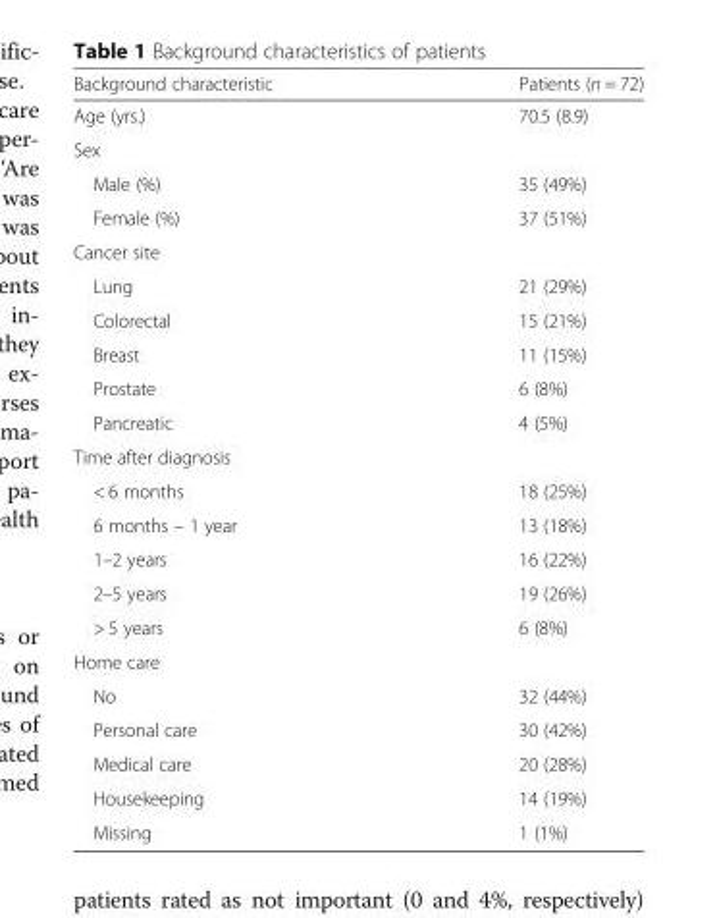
<table><thead><tr><td>Background characteristic</td><td>Patients (n = 72)</td></tr></thead><tbody><tr><td>Age (yrs.)</td><td>70.5 (8.9)</td></tr><tr><td colspan="2">Sex</td></tr><tr><td>Male (%)</td><td>35 (49%)</td></tr><tr><td>Female (%)</td><td>37 (51%)</td></tr><tr><td colspan="2">Cancer site</td></tr><tr><td>Lung</td><td>21 (29%)</td></tr><tr><td>Colorectal</td><td>15 (21%)</td></tr><tr><td>Breast</td><td>11 (15%)</td></tr><tr><td>Prostate</td><td>6 (8%)</td></tr><tr><td>Pancreatic</td><td>4 (5%)</td></tr><tr><td colspan="2">Time after diagnosis</td></tr><tr><td>&lt; 6 months</td><td>18 (25%)</td></tr><tr><td>6 months – 1 year</td><td>13 (18%)</td></tr><tr><td>1–2 years</td><td>16 (22%)</td></tr><tr><td>2–5 years</td><td>19 (26%)</td></tr><tr><td>&gt; 5 years</td><td>6 (8%)</td></tr><tr><td colspan="2">Home care</td></tr><tr><td>No</td><td>32 (44%)</td></tr><tr><td>Personal care</td><td>30 (42%)</td></tr><tr><td>Medical care</td><td>20 (28%)</td></tr><tr><td>Housekeeping</td><td>14 (19%)</td></tr><tr><td>Missing</td><td>1 (1%)</td></tr></tbody></table>